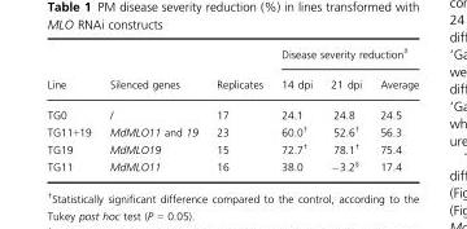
<table><thead><tr><td rowspan="2">Line</td><td rowspan="2">Silenced genes</td><td rowspan="2">Replicates</td><td colspan="3">Disease severity reduction‡</td></tr><tr><td>14 dpi</td><td>21 dpi</td><td>Average</td></tr></thead><tbody><tr><td>TG0</td><td>/</td><td>17</td><td>24.1</td><td>24.8</td><td>24.5</td></tr><tr><td>TG11+19</td><td>MdMLO11 and 19</td><td>23</td><td>60.0†</td><td>52.6†</td><td>56.3</td></tr><tr><td>TG19</td><td>MdMLO19</td><td>15</td><td>72.7†</td><td>78.1†</td><td>75.4</td></tr><tr><td>TG11</td><td>MdMLO11</td><td>16</td><td>38.0</td><td>�3.2§</td><td>17.4</td></tr></tbody></table>